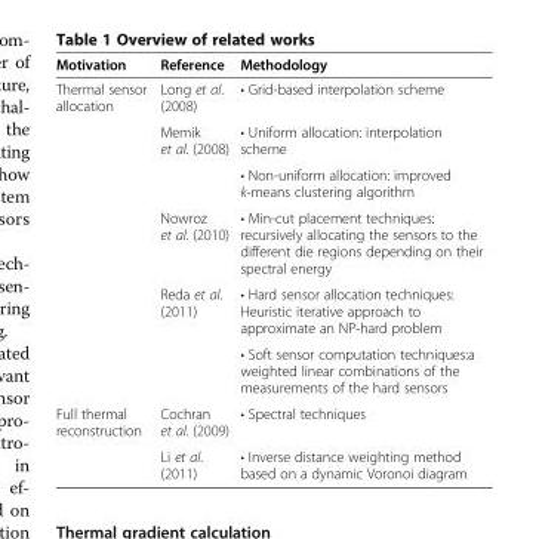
<table><thead><tr><td>Motivation</td><td>Reference</td><td>Methodology</td></tr></thead><tbody><tr><td rowspan="6">Thermal sensor allocation</td><td>Long et al. (2008)</td><td>• Grid-based interpolation scheme</td></tr><tr><td rowspan="2">Memik et al. (2008)</td><td>• Uniform allocation: interpolation scheme</td></tr><tr><td>• Non-uniform allocation: improved k-means clustering algorithm</td></tr><tr><td>Nowroz et al. (2010)</td><td>• Min-cut placement techniques: recursively allocating the sensors to the different die regions depending on their spectral energy</td></tr><tr><td rowspan="2">Reda et al. (2011)</td><td>• Hard sensor allocation techniques: Heuristic iterative approach to approximate an NP-hard problem</td></tr><tr><td>• Soft sensor computation techniques:a weighted linear combinations of the measurements of the hard sensors</td></tr><tr><td rowspan="2">Full thermal reconstruction</td><td>Cochran et al. (2009)</td><td>• Spectral techniques</td></tr><tr><td>Li et al. (2011)</td><td>• Inverse distance weighting method based on a dynamic Voronoi diagram</td></tr></tbody></table>